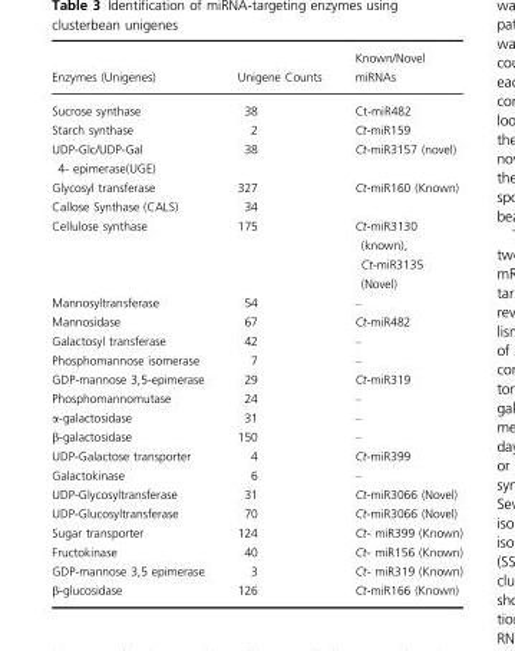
<table><thead><tr><td>Enzymes (Unigenes)</td><td>Unigene Counts</td><td>Known/Novel miRNAs</td></tr></thead><tbody><tr><td>Sucrose synthase</td><td>38</td><td>Ct-miR482</td></tr><tr><td>Starch synthase</td><td>2</td><td>Ct-miR159</td></tr><tr><td>UDP-Glc/UDP-Gal 4- epimerase(UGE)</td><td>38</td><td>Ct-miR3157 (novel)</td></tr><tr><td>Glycosyl transferase</td><td>327</td><td>Ct-miR160 (Known)</td></tr><tr><td>Callose Synthase (CALS)</td><td>34</td><td></td></tr><tr><td>Cellulose synthase</td><td>175</td><td>Ct-miR3130 (known), Ct-miR3135 (Novel)</td></tr><tr><td>Mannosyltransferase</td><td>54</td><td>–</td></tr><tr><td>Mannosidase</td><td>67</td><td>Ct-miR482</td></tr><tr><td>Galactosyl transferase</td><td>42</td><td>–</td></tr><tr><td>Phosphomannose isomerase</td><td>7</td><td>–</td></tr><tr><td>GDP-mannose 3,5-epimerase</td><td>29</td><td>Ct-miR319</td></tr><tr><td>Phosphomannomutase</td><td>24</td><td>–</td></tr><tr><td>α-galactosidase</td><td>31</td><td>–</td></tr><tr><td>β-galactosidase</td><td>150</td><td>–</td></tr><tr><td>UDP-Galactose transporter</td><td>4</td><td>Ct-miR399</td></tr><tr><td>Galactokinase</td><td>6</td><td>–</td></tr><tr><td>UDP-Glycosyltransferase</td><td>31</td><td>Ct-miR3066 (Novel)</td></tr><tr><td>UDP-Glucosyltransferase</td><td>70</td><td>Ct-miR3066 (Novel)</td></tr><tr><td>Sugar transporter</td><td>124</td><td>Ct- miR399 (Known)</td></tr><tr><td>Fructokinase</td><td>40</td><td>Ct- miR156 (Known)</td></tr><tr><td>GDP-mannose 3,5 epimerase</td><td>3</td><td>Ct- miR319 (Known)</td></tr><tr><td>β-glucosidase</td><td>126</td><td>Ct-miR166 (Known)</td></tr></tbody></table>